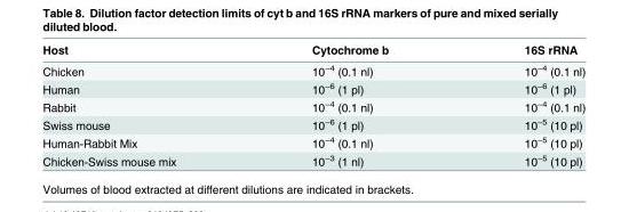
<table><thead><tr><td>Host</td><td>Cytochrome b</td><td>16S rRNA</td></tr></thead><tbody><tr><td>Chicken</td><td>10<sup>−4</sup> (0.1 nl)</td><td>10<sup>−4</sup> (0.1 nl)</td></tr><tr><td>Human</td><td>10<sup>−6</sup> (1 pl)</td><td>10<sup>−6</sup> (1 pl)</td></tr><tr><td>Rabbit</td><td>10<sup>−4</sup> (0.1 nl)</td><td>10<sup>−4</sup> (0.1 nl)</td></tr><tr><td>Swiss mouse</td><td>10<sup>−6</sup> (1 pl)</td><td>10<sup>−5</sup> (10 pl)</td></tr><tr><td>Human-Rabbit Mix</td><td>10<sup>−4</sup> (0.1 nl)</td><td>10<sup>−5</sup> (10 pl)</td></tr><tr><td>Chicken-Swiss mouse mix</td><td>10<sup>−3</sup> (1 nl)</td><td>10<sup>−5</sup> (10 pl)</td></tr></tbody></table>